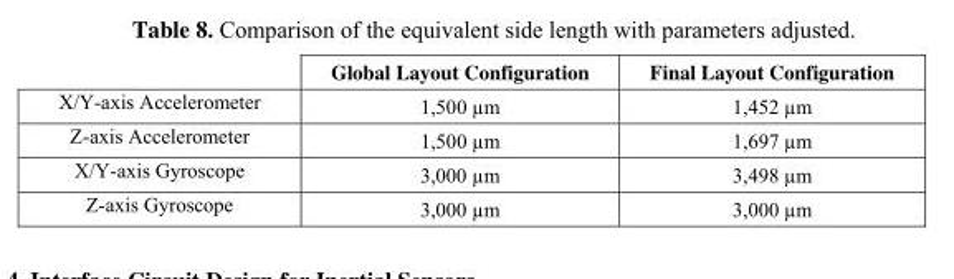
<table><thead><tr><td></td><td>Global Layout Configuration</td><td>Final Layout Configuration</td></tr></thead><tbody><tr><td>X/Y-axis Accelerometer</td><td>1,500 µm</td><td>1,452 µm</td></tr><tr><td>Z-axis Accelerometer</td><td>1,500 µm</td><td>1,697 µm</td></tr><tr><td>X/Y-axis Gyroscope</td><td>3,000 µm</td><td>3,498 µm</td></tr><tr><td>Z-axis Gyroscope</td><td>3,000 µm</td><td>3,000 µm</td></tr></tbody></table>